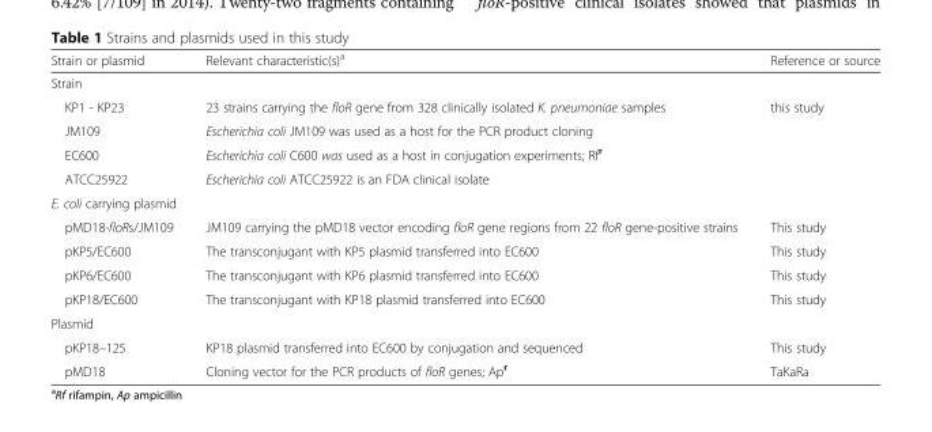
<table><thead><tr><td>Strain or plasmid</td><td>Relevant characteristic(s)<sup>a</sup></td><td>Reference or source</td></tr></thead><tbody><tr><td colspan="3">Strain</td></tr><tr><td>KP1 - KP23</td><td>23 strains carrying the floR gene from 328 clinically isolated K. pneumoniae samples</td><td>this study</td></tr><tr><td>JM109</td><td>Escherichia coli JM109 was used as a host for the PCR product cloning</td><td></td></tr><tr><td>EC600</td><td>Escherichia coli C600 was used as a host in conjugation experiments; Rf<sup>r</sup></td><td></td></tr><tr><td>ATCC25922</td><td>Escherichia coli ATCC25922 is an FDA clinical isolate</td><td></td></tr><tr><td colspan="3">E. coli carrying plasmid</td></tr><tr><td>pMD18-floRs/JM109</td><td>JM109 carrying the pMD18 vector encoding floR gene regions from 22 floR gene-positive strains</td><td>This study</td></tr><tr><td>pKP5/EC600</td><td>The transconjugant with KP5 plasmid transferred into EC600</td><td>This study</td></tr><tr><td>pKP6/EC600</td><td>The transconjugant with KP6 plasmid transferred into EC600</td><td>This study</td></tr><tr><td>pKP18/EC600</td><td>The transconjugant with KP18 plasmid transferred into EC600</td><td>This study</td></tr><tr><td colspan="3">Plasmid</td></tr><tr><td>pKP18–125</td><td>KP18 plasmid transferred into EC600 by conjugation and sequenced</td><td>This study</td></tr><tr><td>pMD18</td><td>Cloning vector for the PCR products of floR genes; Ap<sup>r</sup></td><td>TaKaRa</td></tr></tbody></table>